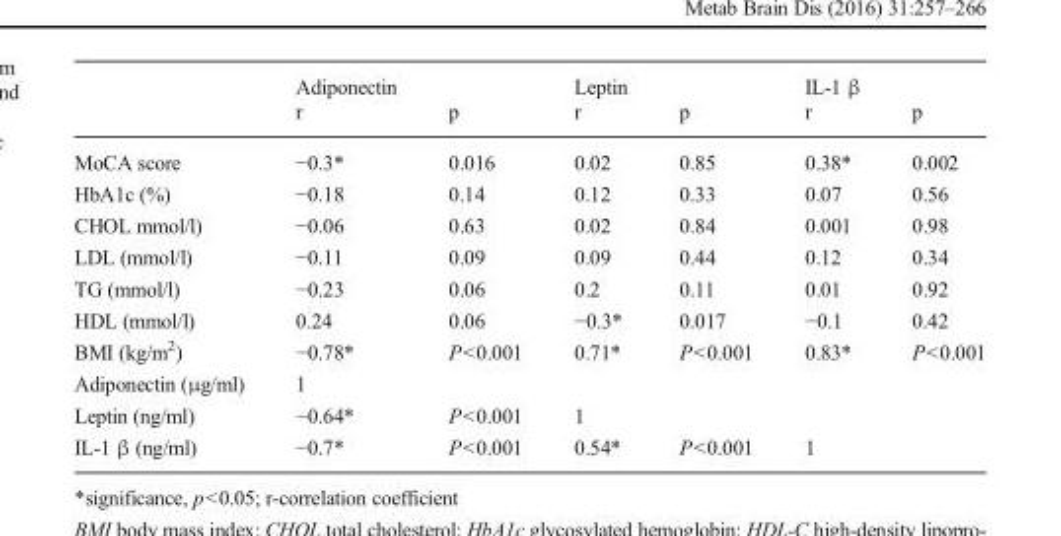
<table><thead><tr><td></td><td>Adiponectin r</td><td>p</td><td>Leptin r</td><td>p</td><td>IL-1 β r</td><td>p</td></tr></thead><tbody><tr><td>MoCA score</td><td>−0.3*</td><td>0.016</td><td>0.02</td><td>0.85</td><td>0.38*</td><td>0.002</td></tr><tr><td>HbA1c (%)</td><td>−0.18</td><td>0.14</td><td>0.12</td><td>0.33</td><td>0.07</td><td>0.56</td></tr><tr><td>CHOL mmol/l)</td><td>−0.06</td><td>0.63</td><td>0.02</td><td>0.84</td><td>0.001</td><td>0.98</td></tr><tr><td>LDL (mmol/l)</td><td>−0.11</td><td>0.09</td><td>0.09</td><td>0.44</td><td>0.12</td><td>0.34</td></tr><tr><td>TG (mmol/l)</td><td>−0.23</td><td>0.06</td><td>0.2</td><td>0.11</td><td>0.01</td><td>0.92</td></tr><tr><td>HDL (mmol/l)</td><td>0.24</td><td>0.06</td><td>−0.3*</td><td>0.017</td><td>−0.1</td><td>0.42</td></tr><tr><td>BMI (kg/m<sup>2</sup>)</td><td>−0.78*</td><td>P&lt;0.001</td><td>0.71*</td><td>P&lt;0.001</td><td>0.83*</td><td>P&lt;0.001</td></tr><tr><td>Adiponectin (μg/ml)</td><td>1</td><td></td><td></td><td></td><td></td><td></td></tr><tr><td>Leptin (ng/ml)</td><td>−0.64*</td><td>P&lt;0.001</td><td>1</td><td></td><td></td><td></td></tr><tr><td>IL-1 β (ng/ml)</td><td>−0.7*</td><td>P&lt;0.001</td><td>0.54*</td><td>P&lt;0.001</td><td>1</td><td></td></tr></tbody></table>